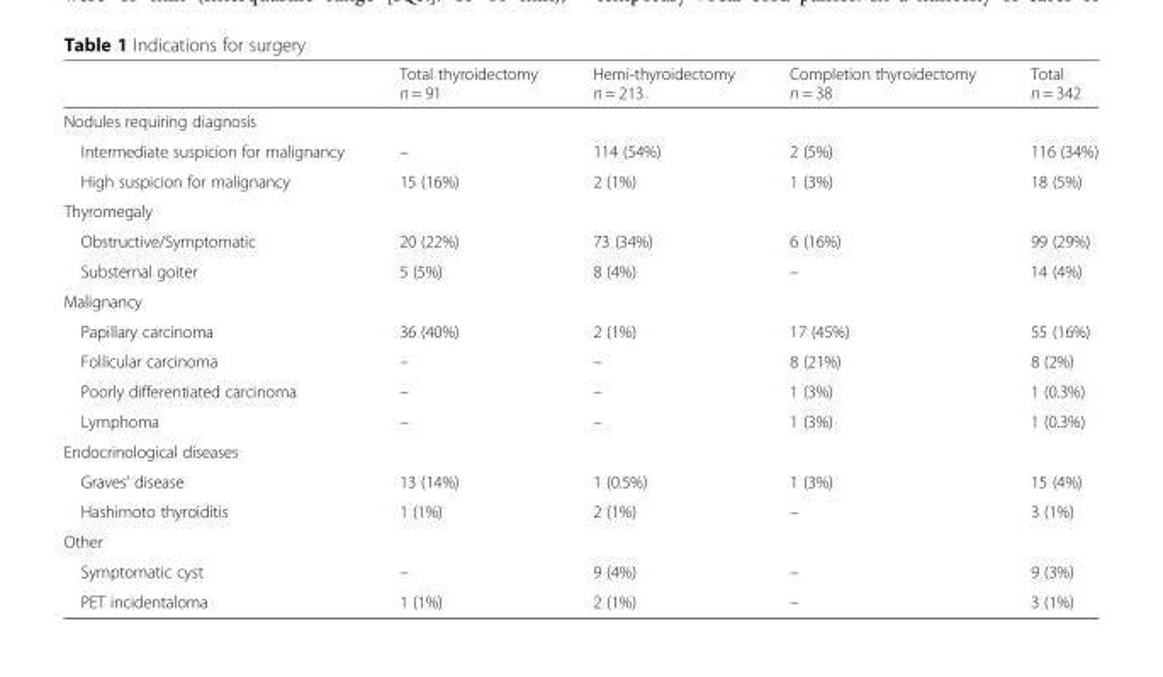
<table><thead><tr><td></td><td>Total thyroidectomy n = 91</td><td>Hemi-thyroidectomy n = 213</td><td>Completion thyroidectomy n = 38</td><td>Total n = 342</td></tr></thead><tbody><tr><td colspan="5">Nodules requiring diagnosis</td></tr><tr><td>Intermediate suspicion for malignancy</td><td>–</td><td>114 (54%)</td><td>2 (5%)</td><td>116 (34%)</td></tr><tr><td>High suspicion for malignancy</td><td>15 (16%)</td><td>2 (1%)</td><td>1 (3%)</td><td>18 (5%)</td></tr><tr><td colspan="5">Thyromegaly</td></tr><tr><td>Obstructive/Symptomatic</td><td>20 (22%)</td><td>73 (34%)</td><td>6 (16%)</td><td>99 (29%)</td></tr><tr><td>Substernal goiter</td><td>5 (5%)</td><td>8 (4%)</td><td>–</td><td>14 (4%)</td></tr><tr><td colspan="5">Malignancy</td></tr><tr><td>Papillary carcinoma</td><td>36 (40%)</td><td>2 (1%)</td><td>17 (45%)</td><td>55 (16%)</td></tr><tr><td>Follicular carcinoma</td><td>–</td><td>–</td><td>8 (21%)</td><td>8 (2%)</td></tr><tr><td>Poorly differentiated carcinoma</td><td>–</td><td>–</td><td>1 (3%)</td><td>1 (0.3%)</td></tr><tr><td>Lymphoma</td><td>–</td><td>–</td><td>1 (3%)</td><td>1 (0.3%)</td></tr><tr><td colspan="5">Endocrinological diseases</td></tr><tr><td>Graves’ disease</td><td>13 (14%)</td><td>1 (0.5%)</td><td>1 (3%)</td><td>15 (4%)</td></tr><tr><td>Hashimoto thyroiditis</td><td>1 (1%)</td><td>2 (1%)</td><td>–</td><td>3 (1%)</td></tr><tr><td colspan="5">Other</td></tr><tr><td>Symptomatic cyst</td><td>–</td><td>9 (4%)</td><td>–</td><td>9 (3%)</td></tr><tr><td>PET incidentaloma</td><td>1 (1%)</td><td>2 (1%)</td><td>–</td><td>3 (1%)</td></tr></tbody></table>